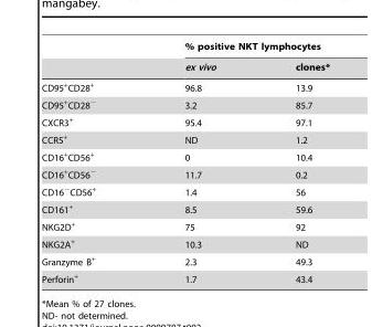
<table><thead><tr><td rowspan="2"></td><td colspan="2">% positive NKT lymphocytes</td></tr><tr><td>ex vivo</td><td>clones*</td></tr></thead><tbody><tr><td>CD95<sup>+</sup>CD28<sup>+</sup></td><td>96.8</td><td>13.9</td></tr><tr><td>CD95<sup>+</sup>CD28<sup>−</sup></td><td>3.2</td><td>85.7</td></tr><tr><td>CXCR3<sup>+</sup></td><td>95.4</td><td>97.1</td></tr><tr><td>CCR5<sup>+</sup></td><td>ND</td><td>1.2</td></tr><tr><td>CD16<sup>+</sup>CD56<sup>+</sup></td><td>0</td><td>10.4</td></tr><tr><td>CD16<sup>+</sup>CD56<sup>−</sup></td><td>11.7</td><td>0.2</td></tr><tr><td>CD16<sup>−</sup>CD56<sup>+</sup></td><td>1.4</td><td>56</td></tr><tr><td>CD161<sup>+</sup></td><td>8.5</td><td>59.6</td></tr><tr><td>NKG2D<sup>+</sup></td><td>75</td><td>92</td></tr><tr><td>NKG2A<sup>+</sup></td><td>10.3</td><td>ND</td></tr><tr><td>Granzyme B<sup>+</sup></td><td>2.3</td><td>49.3</td></tr><tr><td>Perforin<sup>+</sup></td><td>1.7</td><td>43.4</td></tr></tbody></table>